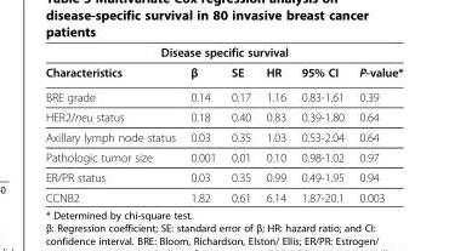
<table><thead><tr><td colspan="6">Disease specific survival</td></tr><tr><td>Characteristics</td><td>β</td><td>SE</td><td>HR</td><td>95% CI</td><td>P-value*</td></tr></thead><tbody><tr><td>BRE grade</td><td>0.14</td><td>0.17</td><td>1.16</td><td>0.83-1.61</td><td>0.39</td></tr><tr><td>HER2/neu status</td><td>0.18</td><td>0.40</td><td>0.83</td><td>0.39-1.80</td><td>0.64</td></tr><tr><td>Axillary lymph node status</td><td>0.03</td><td>0.35</td><td>1.03</td><td>0.53-2.04</td><td>0.64</td></tr><tr><td>Pathologic tumor size</td><td>0.001</td><td>0.01</td><td>0.10</td><td>0.98-1.02</td><td>0.97</td></tr><tr><td>ER/PR status</td><td>0.03</td><td>0.35</td><td>0.99</td><td>0.49-1.95</td><td>0.94</td></tr><tr><td>CCNB2</td><td>1.82</td><td>0.61</td><td>6.14</td><td>1.87-20.1</td><td>0.003</td></tr></tbody></table>